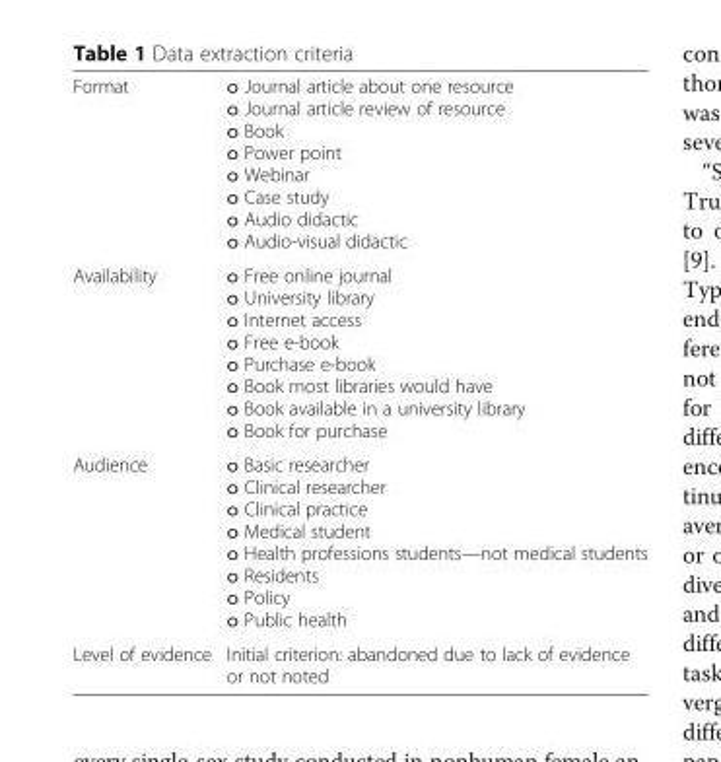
<table><tbody><tr><td>Format</td><td>o Journal article about one resource o Journal article review of resource o Book o Power point o Webinar o Case study o Audio didactic o Audio-visual didactic</td></tr><tr><td>Availability</td><td>o Free online journal o University library o Internet access o Free e-book o Purchase e-book o Book most libraries would have o Book available in a university library o Book for purchase</td></tr><tr><td>Audience</td><td>o Basic researcher o Clinical researcher o Clinical practice o Medical student o Health professions students—not medical students o Residents o Policy o Public health</td></tr><tr><td>Level of evidence</td><td>Initial criterion: abandoned due to lack of evidence or not noted</td></tr></tbody></table>